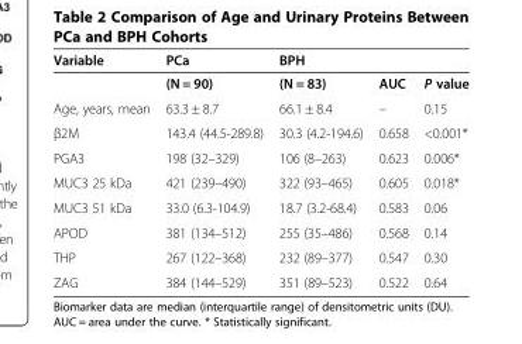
<table><thead><tr><td>Variable</td><td>PCa</td><td>BPH</td><td></td><td></td></tr></thead><tbody><tr><td></td><td>(N = 90)</td><td>(N = 83)</td><td>AUC</td><td>P value</td></tr><tr><td>Age, years, mean</td><td>63.3 ± 8.7</td><td>66.1 ± 8.4</td><td>–</td><td>0.15</td></tr><tr><td>β2M</td><td>143.4 (44.5-289.8)</td><td>30.3 (4.2-194.6)</td><td>0.658</td><td>&lt;0.001*</td></tr><tr><td>PGA3</td><td>198 (32–329)</td><td>106 (8–263)</td><td>0.623</td><td>0.006*</td></tr><tr><td>MUC3 25 kDa</td><td>421 (239–490)</td><td>322 (93–465)</td><td>0.605</td><td>0.018*</td></tr><tr><td>MUC3 51 kDa</td><td>33.0 (6.3-104.9)</td><td>18.7 (3.2-68.4)</td><td>0.583</td><td>0.06</td></tr><tr><td>APOD</td><td>381 (134–512)</td><td>255 (35–486)</td><td>0.568</td><td>0.14</td></tr><tr><td>THP</td><td>267 (122–368)</td><td>232 (89–377)</td><td>0.547</td><td>0.30</td></tr><tr><td>ZAG</td><td>384 (144–529)</td><td>351 (89–523)</td><td>0.522</td><td>0.64</td></tr></tbody></table>